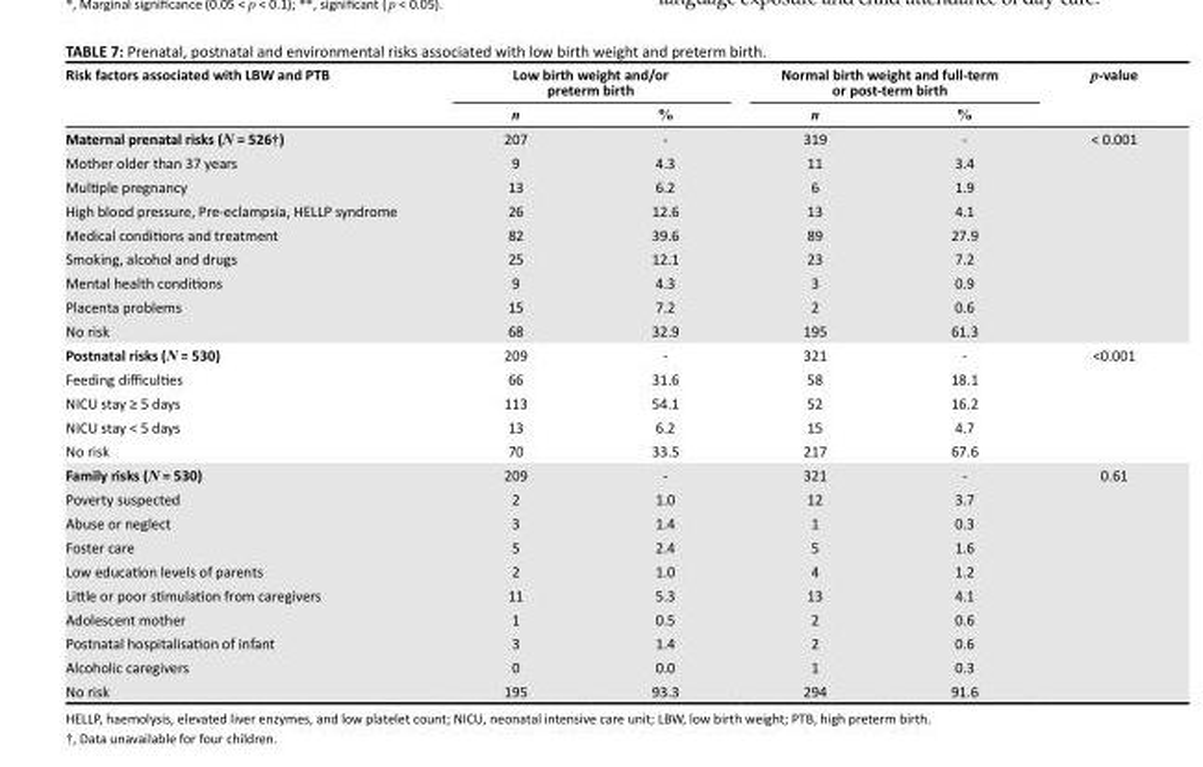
<table><thead><tr><td rowspan="2">Risk factors associated with LBW and PTB</td><td colspan="2">Low birth weight and/or preterm birth</td><td colspan="2">Normal birth weight and full-term or post-term birth</td><td rowspan="2">p-value</td></tr><tr><td>n</td><td>%</td><td>n</td><td>%</td></tr></thead><tbody><tr><td>Maternal prenatal risks (N = 526†)</td><td>207</td><td>-</td><td>319</td><td>-</td><td rowspan="9">&lt; 0.001</td></tr><tr><td>Mother older than 37 years</td><td>9</td><td>4.3</td><td>11</td><td>3.4</td></tr><tr><td>Multiple pregnancy</td><td>13</td><td>6.2</td><td>6</td><td>1.9</td></tr><tr><td>High blood pressure, Pre-eclampsia, HELLP syndrome</td><td>26</td><td>12.6</td><td>13</td><td>4.1</td></tr><tr><td>Medical conditions and treatment</td><td>82</td><td>39.6</td><td>89</td><td>27.9</td></tr><tr><td>Smoking, alcohol and drugs</td><td>25</td><td>12.1</td><td>23</td><td>7.2</td></tr><tr><td>Mental health conditions</td><td>9</td><td>4.3</td><td>3</td><td>0.9</td></tr><tr><td>Placenta problems</td><td>15</td><td>7.2</td><td>2</td><td>0.6</td></tr><tr><td>No risk</td><td>68</td><td>32.9</td><td>195</td><td>61.3</td></tr><tr><td>Postnatal risks (N = 530)</td><td>209</td><td>-</td><td>321</td><td>-</td><td rowspan="5">&lt;0.001</td></tr><tr><td>Feeding difficulties</td><td>66</td><td>31.6</td><td>58</td><td>18.1</td></tr><tr><td>NICU stay ≥ 5 days</td><td>113</td><td>54.1</td><td>52</td><td>16.2</td></tr><tr><td>NICU stay &lt; 5 days</td><td>13</td><td>6.2</td><td>15</td><td>4.7</td></tr><tr><td>No risk</td><td>70</td><td>33.5</td><td>217</td><td>67.6</td></tr><tr><td>Family risks (N = 530)</td><td>209</td><td>-</td><td>321</td><td>-</td><td rowspan="10">0.61</td></tr><tr><td>Poverty suspected</td><td>2</td><td>1.0</td><td>12</td><td>3.7</td></tr><tr><td>Abuse or neglect</td><td>3</td><td>1.4</td><td>1</td><td>0.3</td></tr><tr><td>Foster care</td><td>5</td><td>2.4</td><td>5</td><td>1.6</td></tr><tr><td>Low education levels of parents</td><td>2</td><td>1.0</td><td>4</td><td>1.2</td></tr><tr><td>Little or poor stimulation from caregivers</td><td>11</td><td>5.3</td><td>13</td><td>4.1</td></tr><tr><td>Adolescent mother</td><td>1</td><td>0.5</td><td>2</td><td>0.6</td></tr><tr><td>Postnatal hospitalisation of infant</td><td>3</td><td>1.4</td><td>2</td><td>0.6</td></tr><tr><td>Alcoholic caregivers</td><td>0</td><td>0.0</td><td>1</td><td>0.3</td></tr><tr><td>No risk</td><td>195</td><td>93.3</td><td>294</td><td>91.6</td></tr></tbody></table>